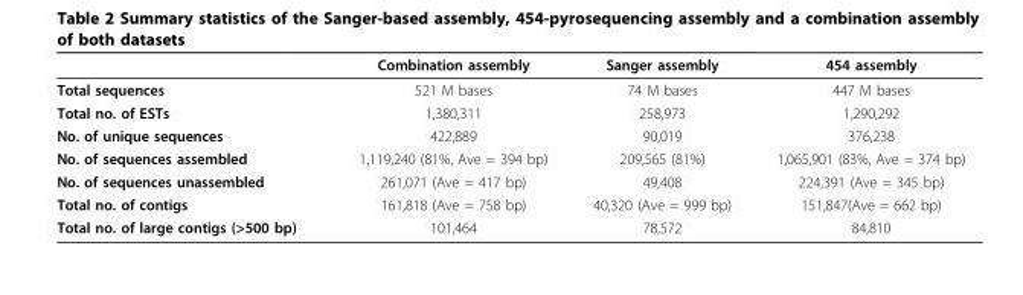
<table><thead><tr><td></td><td>Combination assembly</td><td>Sanger assembly</td><td>454 assembly</td></tr></thead><tbody><tr><td>Total sequences</td><td>521 M bases</td><td>74 M bases</td><td>447 M bases</td></tr><tr><td>Total no. of ESTs</td><td>1,380,311</td><td>258,973</td><td>1,290,292</td></tr><tr><td>No. of unique sequences</td><td>422,889</td><td>90,019</td><td>376,238</td></tr><tr><td>No. of sequences assembled</td><td>1,119,240 (81%, Ave = 394 bp)</td><td>209,565 (81%)</td><td>1,065,901 (83%, Ave = 374 bp)</td></tr><tr><td>No. of sequences unassembled</td><td>261,071 (Ave = 417 bp)</td><td>49,408</td><td>224,391 (Ave = 345 bp)</td></tr><tr><td>Total no. of contigs</td><td>161,818 (Ave = 758 bp)</td><td>40,320 (Ave = 999 bp)</td><td>151,847(Ave = 662 bp)</td></tr><tr><td>Total no. of large contigs (&gt;500 bp)</td><td>101,464</td><td>78,572</td><td>84,810</td></tr></tbody></table>